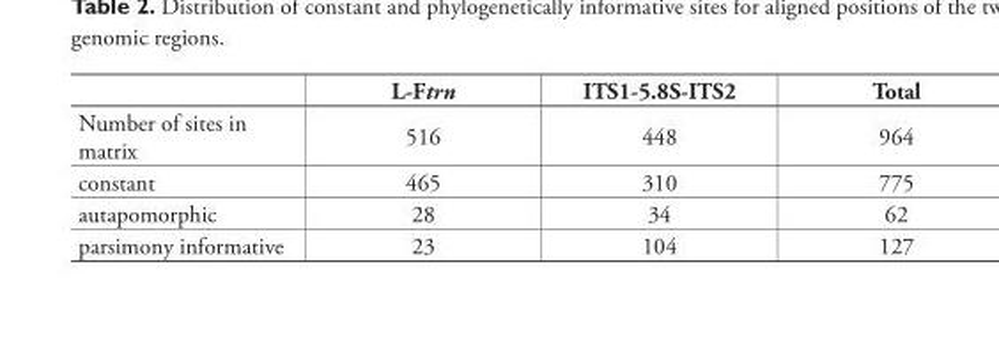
<table><thead><tr><td></td><td>L-Ftrn</td><td>ITS1-5.8S-ITS2</td><td>Total</td></tr></thead><tbody><tr><td>Number of sites in matrix</td><td>516</td><td>448</td><td>964</td></tr><tr><td>constant</td><td>465</td><td>310</td><td>775</td></tr><tr><td>autapomorphic</td><td>28</td><td>34</td><td>62</td></tr><tr><td>parsimony informative</td><td>23</td><td>104</td><td>127</td></tr></tbody></table>